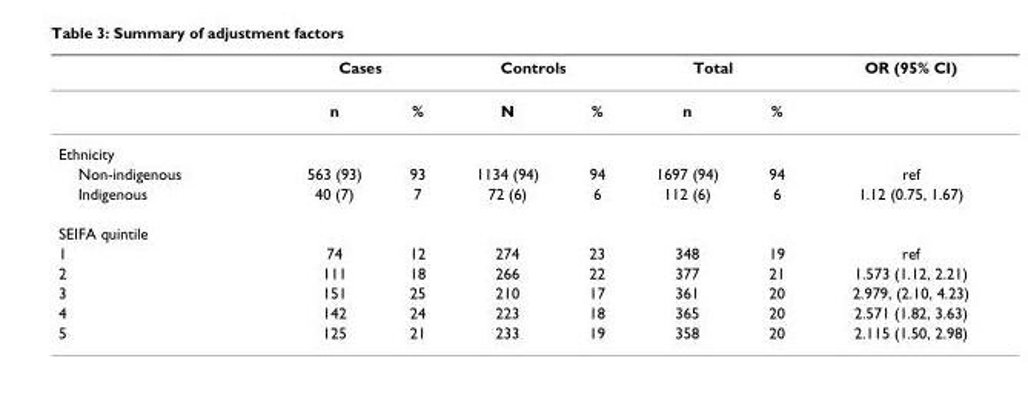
<table><thead><tr><td rowspan="2"></td><td colspan="2">Cases</td><td colspan="2">Controls</td><td colspan="2">Total</td><td rowspan="2">OR (95% CI)</td></tr><tr><td>n</td><td>%</td><td>N</td><td>%</td><td>n</td><td>%</td></tr></thead><tbody><tr><td colspan="8">Ethnicity</td></tr><tr><td>Non-indigenous</td><td>563 (93)</td><td>93</td><td>1134 (94)</td><td>94</td><td>1697 (94)</td><td>94</td><td>ref</td></tr><tr><td>Indigenous</td><td>40 (7)</td><td>7</td><td>72 (6)</td><td>6</td><td>112 (6)</td><td>6</td><td>1.12 (0.75, 1.67)</td></tr><tr><td colspan="8">SEIFA quintile</td></tr><tr><td>1</td><td>74</td><td>12</td><td>274</td><td>23</td><td>348</td><td>19</td><td>ref</td></tr><tr><td>2</td><td>111</td><td>18</td><td>266</td><td>22</td><td>377</td><td>21</td><td>1.573 (1.12, 2.21)</td></tr><tr><td>3</td><td>151</td><td>25</td><td>210</td><td>17</td><td>361</td><td>20</td><td>2.979, (2.10, 4.23)</td></tr><tr><td>4</td><td>142</td><td>24</td><td>223</td><td>18</td><td>365</td><td>20</td><td>2.571 (1.82, 3.63)</td></tr><tr><td>5</td><td>125</td><td>21</td><td>233</td><td>19</td><td>358</td><td>20</td><td>2.115 (1.50, 2.98)</td></tr></tbody></table>